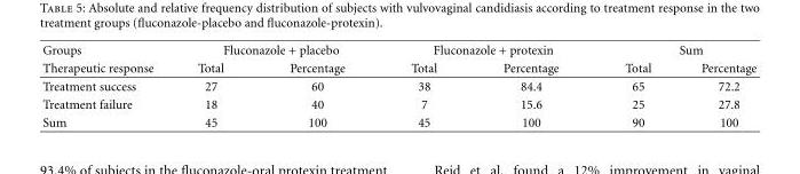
<table><thead><tr><td rowspan="2">Groups Therapeutic response</td><td colspan="2">Fluconazole + placebo</td><td colspan="2">Fluconazole + protexin</td><td colspan="2">Sum</td></tr><tr><td>Total</td><td>Percentage</td><td>Total</td><td>Percentage</td><td>Total</td><td>Percentage</td></tr></thead><tbody><tr><td>Treatment success</td><td>27</td><td>60</td><td>38</td><td>84.4</td><td>65</td><td>72.2</td></tr><tr><td>Treatment failure</td><td>18</td><td>40</td><td>7</td><td>15.6</td><td>25</td><td>27.8</td></tr><tr><td>Sum</td><td>45</td><td>100</td><td>45</td><td>100</td><td>90</td><td>100</td></tr></tbody></table>